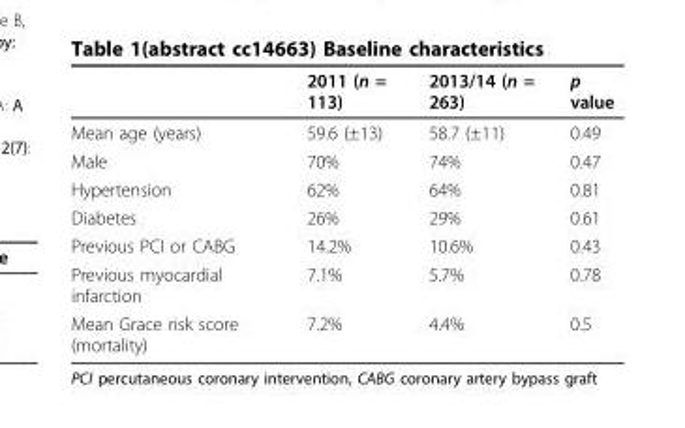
<table><thead><tr><td></td><td>2011 (n = 113)</td><td>2013/14 (n = 263)</td><td>p value</td></tr></thead><tbody><tr><td>Mean age (years)</td><td>59.6 (±13)</td><td>58.7 (±11)</td><td>0.49</td></tr><tr><td>Male</td><td>70%</td><td>74%</td><td>0.47</td></tr><tr><td>Hypertension</td><td>62%</td><td>64%</td><td>0.81</td></tr><tr><td>Diabetes</td><td>26%</td><td>29%</td><td>0.61</td></tr><tr><td>Previous PCI or CABG</td><td>14.2%</td><td>10.6%</td><td>0.43</td></tr><tr><td>Previous myocardial infarction</td><td>7.1%</td><td>5.7%</td><td>0.78</td></tr><tr><td>Mean Grace risk score (mortality)</td><td>7.2%</td><td>4.4%</td><td>0.5</td></tr></tbody></table>